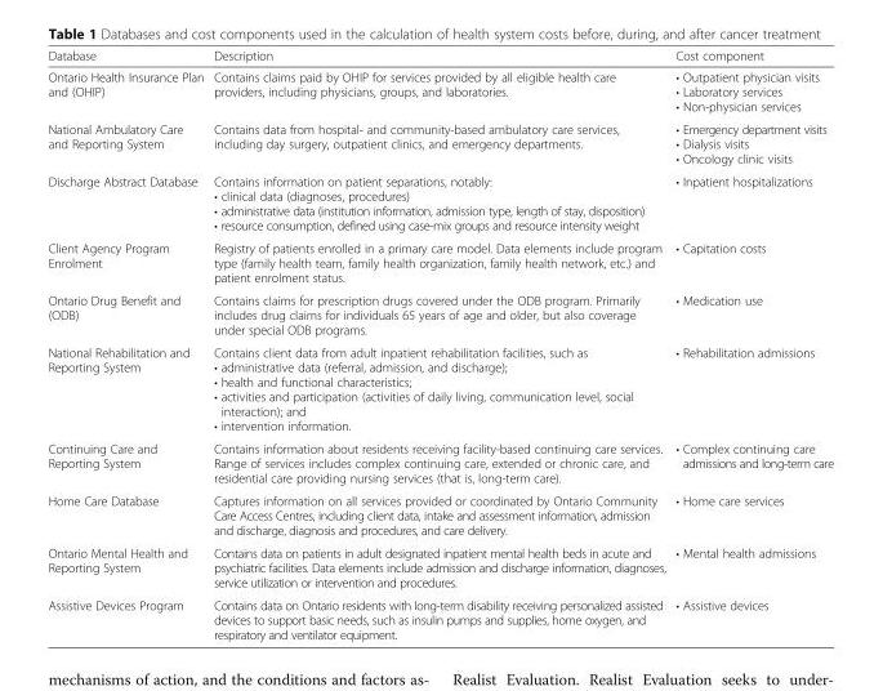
<table><thead><tr><td>Database</td><td>Description</td><td>Cost component</td></tr></thead><tbody><tr><td>Ontario Health Insurance Plan and (OHIP)</td><td>Contains claims paid by OHIP for services provided by all eligible health care providers, including physicians, groups, and laboratories.</td><td>• Outpatient physician visits • Laboratory services • Non-physician services</td></tr><tr><td>National Ambulatory Care and Reporting System</td><td>Contains data from hospital- and community-based ambulatory care services, including day surgery, outpatient clinics, and emergency departments.</td><td>• Emergency department visits • Dialysis visits • Oncology clinic visits</td></tr><tr><td>Discharge Abstract Database</td><td>Contains information on patient separations, notably: • clinical data (diagnoses, procedures) • administrative data (institution information, admission type, length of stay, disposition) • resource consumption, defined using case-mix groups and resource intensity weight</td><td>• Inpatient hospitalizations</td></tr><tr><td>Client Agency Program Enrolment</td><td>Registry of patients enrolled in a primary care model. Data elements include program type (family health team, family health organization, family health network, etc.) and patient enrolment status.</td><td>• Capitation costs</td></tr><tr><td>Ontario Drug Benefit and (ODB)</td><td>Contains claims for prescription drugs covered under the ODB program. Primarily includes drug claims for individuals 65 years of age and older, but also coverage under special ODB programs.</td><td>• Medication use</td></tr><tr><td>National Rehabilitation and Reporting System</td><td>Contains client data from adult inpatient rehabilitation facilities, such as • administrative data (referral, admission, and discharge); • health and functional characteristics; • activities and participation (activities of daily living, communication level, social interaction); and • intervention information.</td><td>• Rehabilitation admissions</td></tr><tr><td>Continuing Care and Reporting System</td><td>Contains information about residents receiving facility-based continuing care services. Range of services includes complex continuing care, extended or chronic care, and residential care providing nursing services (that is, long-term care).</td><td>• Complex continuing care admissions and long-term care</td></tr><tr><td>Home Care Database</td><td>Captures information on all services provided or coordinated by Ontario Community Care Access Centres, including client data, intake and assessment information, admission and discharge, diagnosis and procedures, and care delivery.</td><td>• Home care services</td></tr><tr><td>Ontario Mental Health and Reporting System</td><td>Contains data on patients in adult designated inpatient mental health beds in acute and psychiatric facilities. Data elements include admission and discharge information, diagnoses, service utilization or intervention and procedures.</td><td>• Mental health admissions</td></tr><tr><td>Assistive Devices Program</td><td>Contains data on Ontario residents with long-term disability receiving personalized assisted devices to support basic needs, such as insulin pumps and supplies, home oxygen, and respiratory and ventilator equipment.</td><td>• Assistive devices</td></tr></tbody></table>